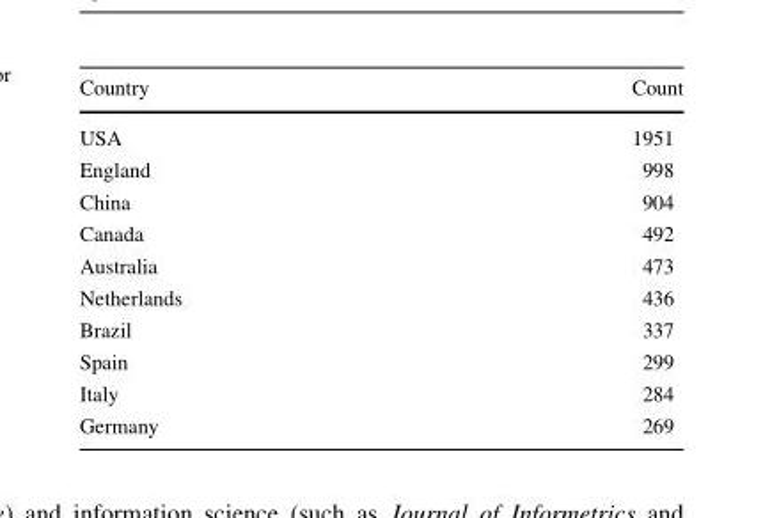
<table><thead><tr><td>Country</td><td>Count</td></tr></thead><tbody><tr><td>USA</td><td>1951</td></tr><tr><td>England</td><td>998</td></tr><tr><td>China</td><td>904</td></tr><tr><td>Canada</td><td>492</td></tr><tr><td>Australia</td><td>473</td></tr><tr><td>Netherlands</td><td>436</td></tr><tr><td>Brazil</td><td>337</td></tr><tr><td>Spain</td><td>299</td></tr><tr><td>Italy</td><td>284</td></tr><tr><td>Germany</td><td>269</td></tr></tbody></table>